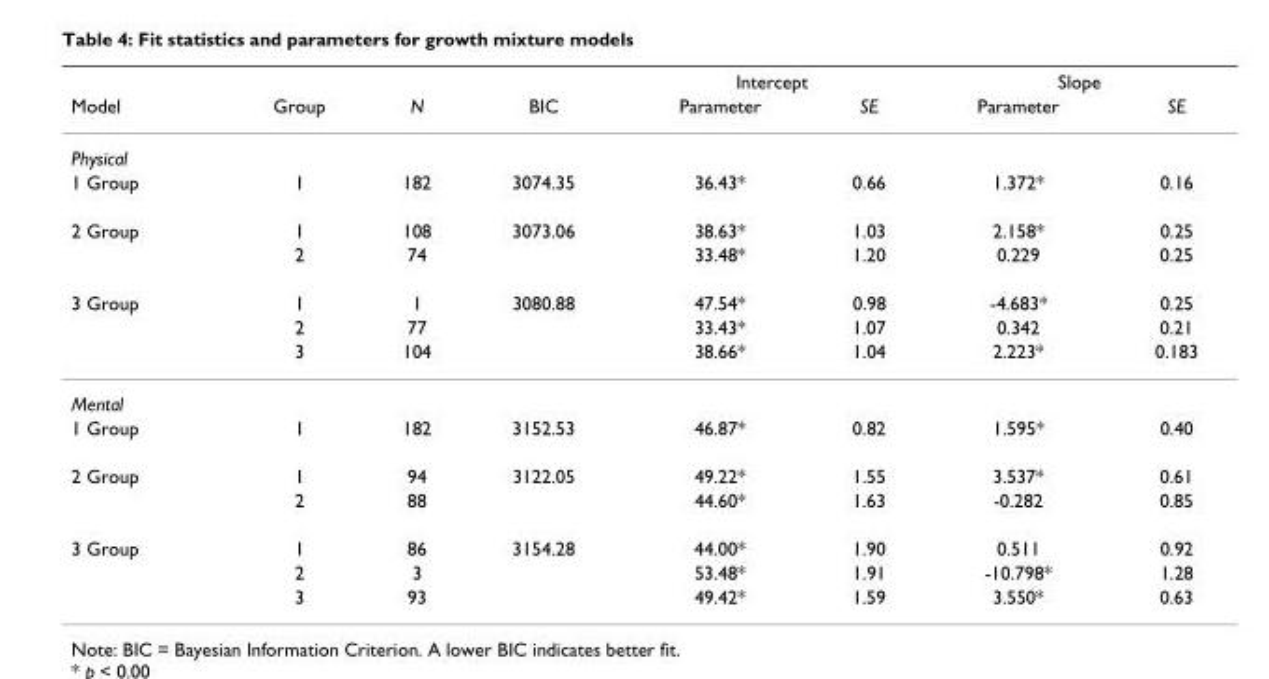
<table><thead><tr><td rowspan="2">Model</td><td rowspan="2">Group</td><td rowspan="2">N</td><td rowspan="2">BIC</td><td colspan="2">Intercept</td><td colspan="2">Slope</td></tr><tr><td>Parameter</td><td>SE</td><td>Parameter</td><td>SE</td></tr></thead><tbody><tr><td colspan="8">Physical</td></tr><tr><td>1 Group</td><td>1</td><td>182</td><td>3074.35</td><td>36.43*</td><td>0.66</td><td>1.372*</td><td>0.16</td></tr><tr><td rowspan="2">2 Group</td><td>1</td><td>108</td><td>3073.06</td><td>38.63*</td><td>1.03</td><td>2.158*</td><td>0.25</td></tr><tr><td>2</td><td>74</td><td></td><td>33.48*</td><td>1.20</td><td>0.229</td><td>0.25</td></tr><tr><td rowspan="3">3 Group</td><td>1</td><td>1</td><td>3080.88</td><td>47.54*</td><td>0.98</td><td>-4.683*</td><td>0.25</td></tr><tr><td>2</td><td>77</td><td></td><td>33.43*</td><td>1.07</td><td>0.342</td><td>0.21</td></tr><tr><td>3</td><td>104</td><td></td><td>38.66*</td><td>1.04</td><td>2.223*</td><td>0.183</td></tr><tr><td colspan="8">Mental</td></tr><tr><td>1 Group</td><td>1</td><td>182</td><td>3152.53</td><td>46.87*</td><td>0.82</td><td>1.595*</td><td>0.40</td></tr><tr><td rowspan="2">2 Group</td><td>1</td><td>94</td><td>3122.05</td><td>49.22*</td><td>1.55</td><td>3.537*</td><td>0.61</td></tr><tr><td>2</td><td>88</td><td></td><td>44.60*</td><td>1.63</td><td>-0.282</td><td>0.85</td></tr><tr><td rowspan="3">3 Group</td><td>1</td><td>86</td><td>3154.28</td><td>44.00*</td><td>1.90</td><td>0.511</td><td>0.92</td></tr><tr><td>2</td><td>3</td><td></td><td>53.48*</td><td>1.91</td><td>-10.798*</td><td>1.28</td></tr><tr><td>3</td><td>93</td><td></td><td>49.42*</td><td>1.59</td><td>3.550*</td><td>0.63</td></tr></tbody></table>